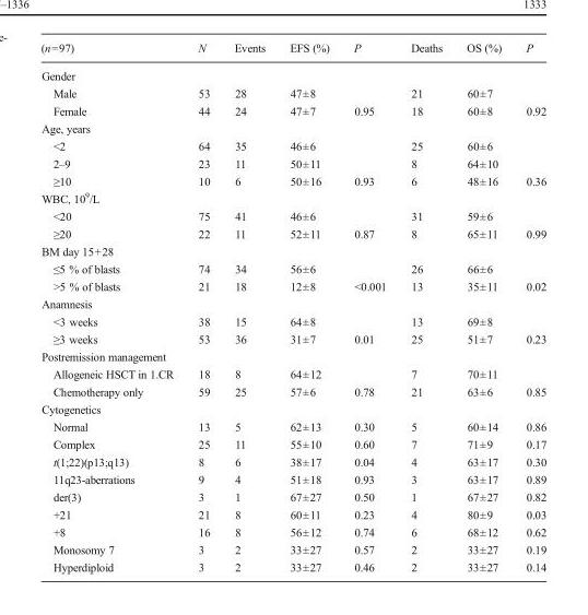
<table><thead><tr><td>(n=97)</td><td>N</td><td>Events</td><td>EFS (%)</td><td>P</td><td>Deaths</td><td>OS (%)</td><td>P</td></tr></thead><tbody><tr><td colspan="8">Gender</td></tr><tr><td>Male</td><td>53</td><td>28</td><td>47±8</td><td></td><td>21</td><td>60±7</td><td></td></tr><tr><td>Female</td><td>44</td><td>24</td><td>47±7</td><td>0.95</td><td>18</td><td>60±8</td><td>0.92</td></tr><tr><td colspan="8">Age, years</td></tr><tr><td>&lt;2</td><td>64</td><td>35</td><td>46±6</td><td></td><td>25</td><td>60±6</td><td></td></tr><tr><td>2–9</td><td>23</td><td>11</td><td>50±11</td><td></td><td>8</td><td>64±10</td><td></td></tr><tr><td>≥10</td><td>10</td><td>6</td><td>50±16</td><td>0.93</td><td>6</td><td>48±16</td><td>0.36</td></tr><tr><td colspan="8">WBC, 10<sup>9</sup>/L</td></tr><tr><td>&lt;20</td><td>75</td><td>41</td><td>46±6</td><td></td><td>31</td><td>59±6</td><td></td></tr><tr><td>≥20</td><td>22</td><td>11</td><td>52±11</td><td>0.87</td><td>8</td><td>65±11</td><td>0.99</td></tr><tr><td colspan="8">BM day 15+28</td></tr><tr><td>≤5 % of blasts</td><td>74</td><td>34</td><td>56±6</td><td></td><td>26</td><td>66±6</td><td></td></tr><tr><td>&gt;5 % of blasts</td><td>21</td><td>18</td><td>12±8</td><td>&lt;0.001</td><td>13</td><td>35±11</td><td>0.02</td></tr><tr><td colspan="8">Anamnesis</td></tr><tr><td>&lt;3 weeks</td><td>38</td><td>15</td><td>64±8</td><td></td><td>13</td><td>69±8</td><td></td></tr><tr><td>≥3 weeks</td><td>53</td><td>36</td><td>31±7</td><td>0.01</td><td>25</td><td>51±7</td><td>0.23</td></tr><tr><td colspan="8">Postremission management</td></tr><tr><td>Allogeneic HSCT in 1.CR</td><td>18</td><td>8</td><td>64±12</td><td></td><td>7</td><td>70±11</td><td></td></tr><tr><td>Chemotherapy only</td><td>59</td><td>25</td><td>57±6</td><td>0.78</td><td>21</td><td>63±6</td><td>0.85</td></tr><tr><td colspan="8">Cytogenetics</td></tr><tr><td>Normal</td><td>13</td><td>5</td><td>62±13</td><td>0.30</td><td>5</td><td>60±14</td><td>0.86</td></tr><tr><td>Complex</td><td>25</td><td>11</td><td>55±10</td><td>0.60</td><td>7</td><td>71±9</td><td>0.17</td></tr><tr><td>t(1;22)(p13;q13)</td><td>8</td><td>6</td><td>38±17</td><td>0.04</td><td>4</td><td>63±17</td><td>0.30</td></tr><tr><td>11q23-aberrations</td><td>9</td><td>4</td><td>51±18</td><td>0.93</td><td>3</td><td>63±17</td><td>0.89</td></tr><tr><td>der(3)</td><td>3</td><td>1</td><td>67±27</td><td>0.50</td><td>1</td><td>67±27</td><td>0.82</td></tr><tr><td>+21</td><td>21</td><td>8</td><td>60±11</td><td>0.23</td><td>4</td><td>80±9</td><td>0.03</td></tr><tr><td>+8</td><td>16</td><td>8</td><td>56±12</td><td>0.74</td><td>6</td><td>68±12</td><td>0.62</td></tr><tr><td>Monosomy 7</td><td>3</td><td>2</td><td>33±27</td><td>0.57</td><td>2</td><td>33±27</td><td>0.19</td></tr><tr><td>Hyperdiploid</td><td>3</td><td>2</td><td>33±27</td><td>0.46</td><td>2</td><td>33±27</td><td>0.14</td></tr></tbody></table>